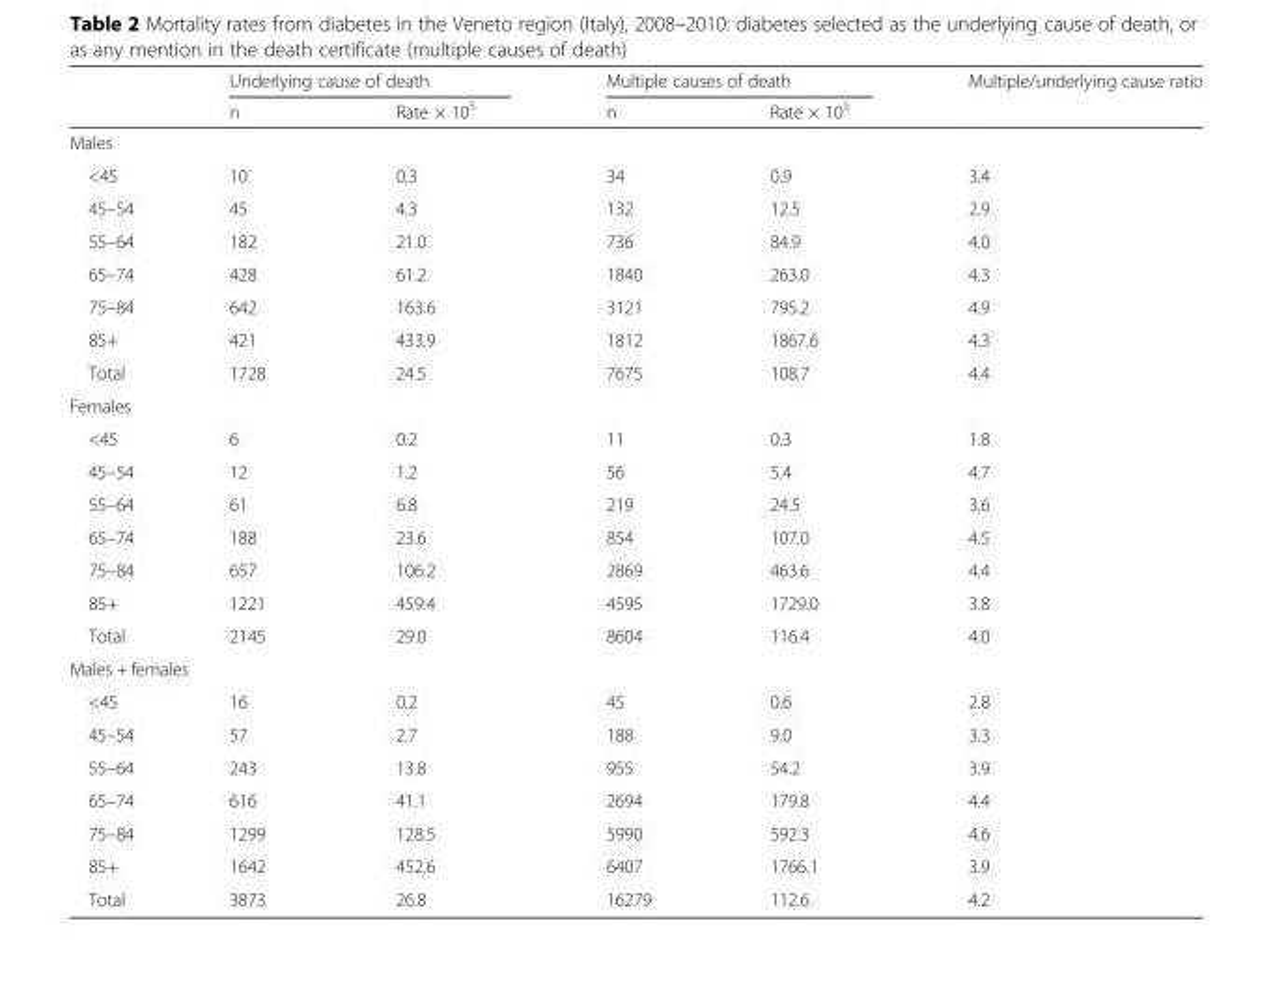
<table><thead><tr><td rowspan="2"></td><td colspan="2">Underlying cause of death</td><td colspan="2">Multiple causes of death</td><td rowspan="2">Multiple/underlying cause ratio</td></tr><tr><td>n</td><td>Rate × 10<sup>5</sup></td><td>n</td><td>Rate × 10<sup>5</sup></td></tr></thead><tbody><tr><td colspan="6">Males</td></tr><tr><td>&lt;45</td><td>10</td><td>0.3</td><td>34</td><td>0.9</td><td>3.4</td></tr><tr><td>45–54</td><td>45</td><td>4.3</td><td>132</td><td>12.5</td><td>2.9</td></tr><tr><td>55–64</td><td>182</td><td>21.0</td><td>736</td><td>84.9</td><td>4.0</td></tr><tr><td>65–74</td><td>428</td><td>61.2</td><td>1840</td><td>263.0</td><td>4.3</td></tr><tr><td>75–84</td><td>642</td><td>163.6</td><td>3121</td><td>795.2</td><td>4.9</td></tr><tr><td>85+</td><td>421</td><td>433.9</td><td>1812</td><td>1867.6</td><td>4.3</td></tr><tr><td>Total</td><td>1728</td><td>24.5</td><td>7675</td><td>108.7</td><td>4.4</td></tr><tr><td colspan="6">Females</td></tr><tr><td>&lt;45</td><td>6</td><td>0.2</td><td>11</td><td>0.3</td><td>1.8</td></tr><tr><td>45–54</td><td>12</td><td>1.2</td><td>56</td><td>5.4</td><td>4.7</td></tr><tr><td>55–64</td><td>61</td><td>6.8</td><td>219</td><td>24.5</td><td>3.6</td></tr><tr><td>65–74</td><td>188</td><td>23.6</td><td>854</td><td>107.0</td><td>4.5</td></tr><tr><td>75–84</td><td>657</td><td>106.2</td><td>2869</td><td>463.6</td><td>4.4</td></tr><tr><td>85+</td><td>1221</td><td>459.4</td><td>4595</td><td>1729.0</td><td>3.8</td></tr><tr><td>Total</td><td>2145</td><td>29.0</td><td>8604</td><td>116.4</td><td>4.0</td></tr><tr><td colspan="6">Males + females</td></tr><tr><td>&lt;45</td><td>16</td><td>0.2</td><td>45</td><td>0.6</td><td>2.8</td></tr><tr><td>45–54</td><td>57</td><td>2.7</td><td>188</td><td>9.0</td><td>3.3</td></tr><tr><td>55–64</td><td>243</td><td>13.8</td><td>955</td><td>54.2</td><td>3.9</td></tr><tr><td>65–74</td><td>616</td><td>41.1</td><td>2694</td><td>179.8</td><td>4.4</td></tr><tr><td>75–84</td><td>1299</td><td>128.5</td><td>5990</td><td>592.3</td><td>4.6</td></tr><tr><td>85+</td><td>1642</td><td>452.6</td><td>6407</td><td>1766.1</td><td>3.9</td></tr><tr><td>Total</td><td>3873</td><td>26.8</td><td>16279</td><td>112.6</td><td>4.2</td></tr></tbody></table>